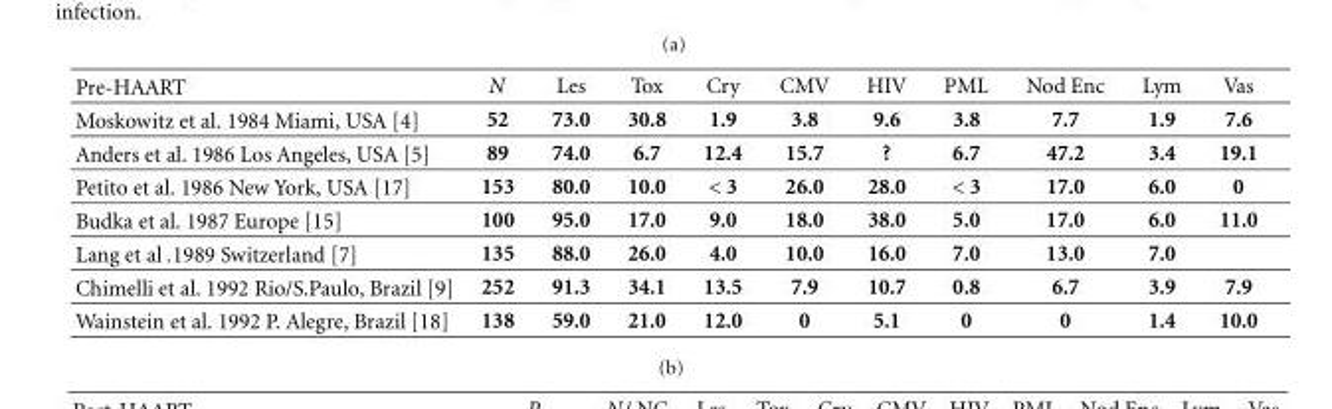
<table><thead><tr><td>Pre-HAART</td><td>N</td><td>Les</td><td>Tox</td><td>Cry</td><td>CMV</td><td>HIV</td><td>PML</td><td>Nod Enc</td><td>Lym</td><td>Vas</td></tr></thead><tbody><tr><td>Moskowitz et al. 1984 Miami, USA [4]</td><td>52</td><td>73.0</td><td>30.8</td><td>1.9</td><td>3.8</td><td>9.6</td><td>3.8</td><td>7.7</td><td>1.9</td><td>7.6</td></tr><tr><td>Anders et al. 1986 Los Angeles, USA [5]</td><td>89</td><td>74.0</td><td>6.7</td><td>12.4</td><td>15.7</td><td>?</td><td>6.7</td><td>47.2</td><td>3.4</td><td>19.1</td></tr><tr><td>Petito et al. 1986 New York, USA [17]</td><td>153</td><td>80.0</td><td>10.0</td><td>&lt; 3</td><td>26.0</td><td>28.0</td><td>&lt; 3</td><td>17.0</td><td>6.0</td><td>0</td></tr><tr><td>Budka et al. 1987 Europe [15]</td><td>100</td><td>95.0</td><td>17.0</td><td>9.0</td><td>18.0</td><td>38.0</td><td>5.0</td><td>17.0</td><td>6.0</td><td>11.0</td></tr><tr><td>Lang et al .1989 Switzerland [7]</td><td>135</td><td>88.0</td><td>26.0</td><td>4.0</td><td>10.0</td><td>16.0</td><td>7.0</td><td>13.0</td><td>7.0</td><td></td></tr><tr><td>Chimelli et al. 1992 Rio/S.Paulo, Brazil [9]</td><td>252</td><td>91.3</td><td>34.1</td><td>13.5</td><td>7.9</td><td>10.7</td><td>0.8</td><td>6.7</td><td>3.9</td><td>7.9</td></tr><tr><td>Wainstein et al. 1992 P. Alegre, Brazil [18]</td><td>138</td><td>59.0</td><td>21.0</td><td>12.0</td><td>0</td><td>5.1</td><td>0</td><td>0</td><td>1.4</td><td>10.0</td></tr></tbody></table>